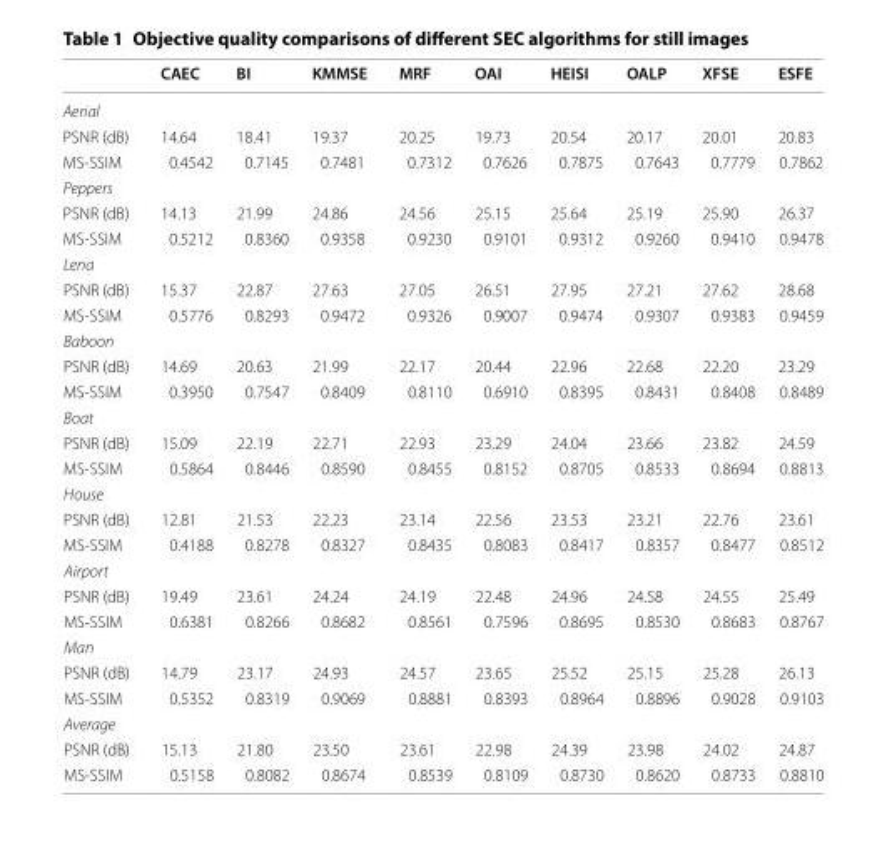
<table><thead><tr><td></td><td>CAEC</td><td>BI</td><td>KMMSE</td><td>MRF</td><td>OAI</td><td>HEISI</td><td>OALP</td><td>XFSE</td><td>ESFE</td></tr></thead><tbody><tr><td colspan="10">Aerial</td></tr><tr><td>PSNR (dB)</td><td>14.64</td><td>18.41</td><td>19.37</td><td>20.25</td><td>19.73</td><td>20.54</td><td>20.17</td><td>20.01</td><td>20.83</td></tr><tr><td>MS-SSIM</td><td>0.4542</td><td>0.7145</td><td>0.7481</td><td>0.7312</td><td>0.7626</td><td>0.7875</td><td>0.7643</td><td>0.7779</td><td>0.7862</td></tr><tr><td colspan="10">Peppers</td></tr><tr><td>PSNR (dB)</td><td>14.13</td><td>21.99</td><td>24.86</td><td>24.56</td><td>25.15</td><td>25.64</td><td>25.19</td><td>25.90</td><td>26.37</td></tr><tr><td>MS-SSIM</td><td>0.5212</td><td>0.8360</td><td>0.9358</td><td>0.9230</td><td>0.9101</td><td>0.9312</td><td>0.9260</td><td>0.9410</td><td>0.9478</td></tr><tr><td colspan="10">Lena</td></tr><tr><td>PSNR (dB)</td><td>15.37</td><td>22.87</td><td>27.63</td><td>27.05</td><td>26.51</td><td>27.95</td><td>27.21</td><td>27.62</td><td>28.68</td></tr><tr><td>MS-SSIM</td><td>0.5776</td><td>0.8293</td><td>0.9472</td><td>0.9326</td><td>0.9007</td><td>0.9474</td><td>0.9307</td><td>0.9383</td><td>0.9459</td></tr><tr><td colspan="10">Baboon</td></tr><tr><td>PSNR (dB)</td><td>14.69</td><td>20.63</td><td>21.99</td><td>22.17</td><td>20.44</td><td>22.96</td><td>22.68</td><td>22.20</td><td>23.29</td></tr><tr><td>MS-SSIM</td><td>0.3950</td><td>0.7547</td><td>0.8409</td><td>0.8110</td><td>0.6910</td><td>0.8395</td><td>0.8431</td><td>0.8408</td><td>0.8489</td></tr><tr><td colspan="10">Boat</td></tr><tr><td>PSNR (dB)</td><td>15.09</td><td>22.19</td><td>22.71</td><td>22.93</td><td>23.29</td><td>24.04</td><td>23.66</td><td>23.82</td><td>24.59</td></tr><tr><td>MS-SSIM</td><td>0.5864</td><td>0.8446</td><td>0.8590</td><td>0.8455</td><td>0.8152</td><td>0.8705</td><td>0.8533</td><td>0.8694</td><td>0.8813</td></tr><tr><td colspan="10">House</td></tr><tr><td>PSNR (dB)</td><td>12.81</td><td>21.53</td><td>22.23</td><td>23.14</td><td>22.56</td><td>23.53</td><td>23.21</td><td>22.76</td><td>23.61</td></tr><tr><td>MS-SSIM</td><td>0.4188</td><td>0.8278</td><td>0.8327</td><td>0.8435</td><td>0.8083</td><td>0.8417</td><td>0.8357</td><td>0.8477</td><td>0.8512</td></tr><tr><td colspan="10">Airport</td></tr><tr><td>PSNR (dB)</td><td>19.49</td><td>23.61</td><td>24.24</td><td>24.19</td><td>22.48</td><td>24.96</td><td>24.58</td><td>24.55</td><td>25.49</td></tr><tr><td>MS-SSIM</td><td>0.6381</td><td>0.8266</td><td>0.8682</td><td>0.8561</td><td>0.7596</td><td>0.8695</td><td>0.8530</td><td>0.8683</td><td>0.8767</td></tr><tr><td colspan="10">Man</td></tr><tr><td>PSNR (dB)</td><td>14.79</td><td>23.17</td><td>24.93</td><td>24.57</td><td>23.65</td><td>25.52</td><td>25.15</td><td>25.28</td><td>26.13</td></tr><tr><td>MS-SSIM</td><td>0.5352</td><td>0.8319</td><td>0.9069</td><td>0.8881</td><td>0.8393</td><td>0.8964</td><td>0.8896</td><td>0.9028</td><td>0.9103</td></tr><tr><td colspan="10">Average</td></tr><tr><td>PSNR (dB)</td><td>15.13</td><td>21.80</td><td>23.50</td><td>23.61</td><td>22.98</td><td>24.39</td><td>23.98</td><td>24.02</td><td>24.87</td></tr><tr><td>MS-SSIM</td><td>0.5158</td><td>0.8082</td><td>0.8674</td><td>0.8539</td><td>0.8109</td><td>0.8730</td><td>0.8620</td><td>0.8733</td><td>0.8810</td></tr></tbody></table>